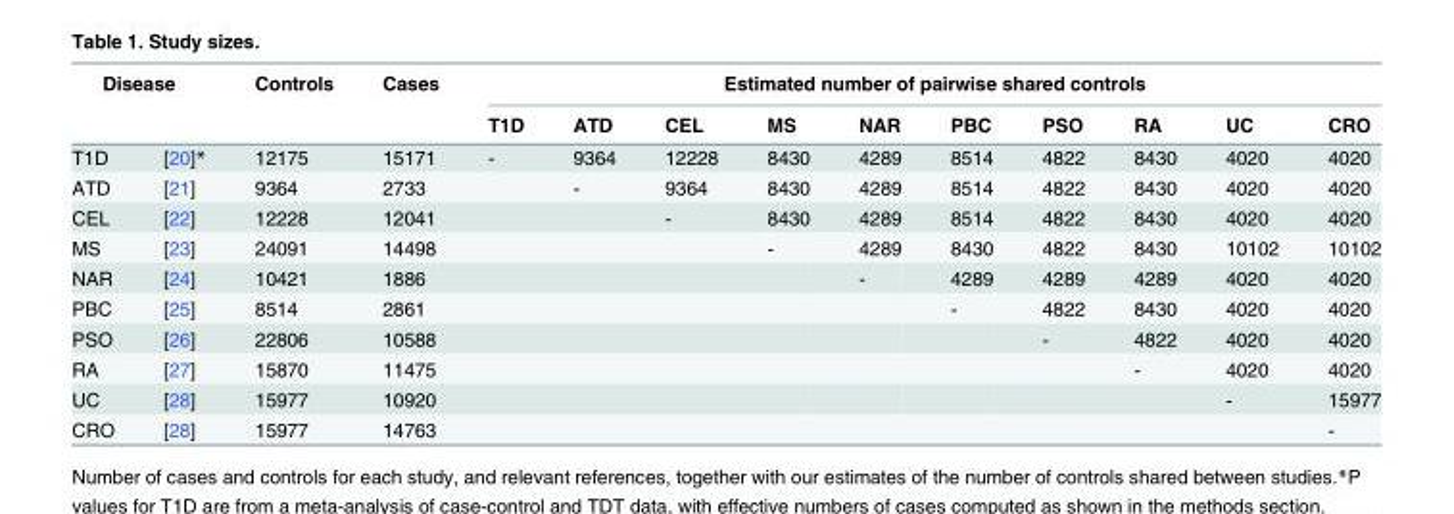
<table><thead><tr><td colspan="2">Disease</td><td rowspan="2">Controls</td><td rowspan="2">Cases</td><td colspan="10">Estimated number of pairwise shared controls</td></tr><tr><td></td><td></td><td>T1D</td><td>ATD</td><td>CEL</td><td>MS</td><td>NAR</td><td>PBC</td><td>PSO</td><td>RA</td><td>UC</td><td>CRO</td></tr></thead><tbody><tr><td>T1D</td><td>[20]*</td><td>12175</td><td>15171</td><td>-</td><td>9364</td><td>12228</td><td>8430</td><td>4289</td><td>8514</td><td>4822</td><td>8430</td><td>4020</td><td>4020</td></tr><tr><td>ATD</td><td>[21]</td><td>9364</td><td>2733</td><td></td><td>-</td><td>9364</td><td>8430</td><td>4289</td><td>8514</td><td>4822</td><td>8430</td><td>4020</td><td>4020</td></tr><tr><td>CEL</td><td>[22]</td><td>12228</td><td>12041</td><td></td><td></td><td>-</td><td>8430</td><td>4289</td><td>8514</td><td>4822</td><td>8430</td><td>4020</td><td>4020</td></tr><tr><td>MS</td><td>[23]</td><td>24091</td><td>14498</td><td></td><td></td><td></td><td>-</td><td>4289</td><td>8430</td><td>4822</td><td>8430</td><td>10102</td><td>10102</td></tr><tr><td>NAR</td><td>[24]</td><td>10421</td><td>1886</td><td></td><td></td><td></td><td></td><td>-</td><td>4289</td><td>4289</td><td>4289</td><td>4020</td><td>4020</td></tr><tr><td>PBC</td><td>[25]</td><td>8514</td><td>2861</td><td></td><td></td><td></td><td></td><td></td><td>-</td><td>4822</td><td>8430</td><td>4020</td><td>4020</td></tr><tr><td>PSO</td><td>[26]</td><td>22806</td><td>10588</td><td></td><td></td><td></td><td></td><td></td><td></td><td>-</td><td>4822</td><td>4020</td><td>4020</td></tr><tr><td>RA</td><td>[27]</td><td>15870</td><td>11475</td><td></td><td></td><td></td><td></td><td></td><td></td><td></td><td>-</td><td>4020</td><td>4020</td></tr><tr><td>UC</td><td>[28]</td><td>15977</td><td>10920</td><td></td><td></td><td></td><td></td><td></td><td></td><td></td><td></td><td>-</td><td>15977</td></tr><tr><td>CRO</td><td>[28]</td><td>15977</td><td>14763</td><td></td><td></td><td></td><td></td><td></td><td></td><td></td><td></td><td></td><td>-</td></tr></tbody></table>